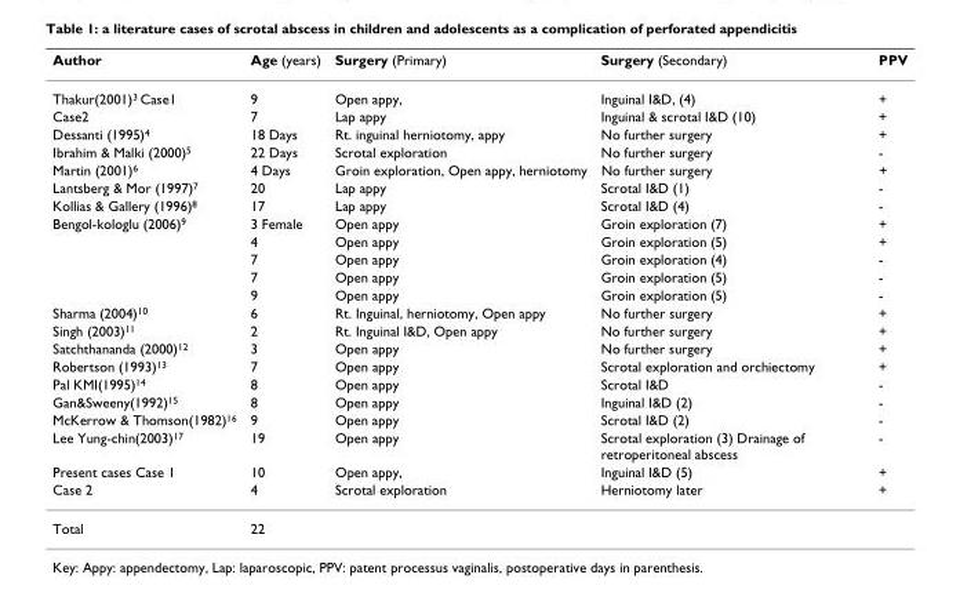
<table><thead><tr><td>Author</td><td>Age (years)</td><td>Surgery (Primary)</td><td>Surgery (Secondary)</td><td>PPV</td></tr></thead><tbody><tr><td>Thakur(2001)<sup>3</sup> Case1</td><td>9</td><td>Open appy,</td><td>Inguinal I&amp;D, (4)</td><td>+</td></tr><tr><td>Case2</td><td>7</td><td>Lap appy</td><td>Inguinal &amp; scrotal I&amp;D (10)</td><td>+</td></tr><tr><td>Dessanti (1995)<sup>4</sup></td><td>18 Days</td><td>Rt. inguinal herniotomy, appy</td><td>No further surgery</td><td>+</td></tr><tr><td>Ibrahim &amp; Malki (2000)<sup>5</sup></td><td>22 Days</td><td>Scrotal exploration</td><td>No further surgery</td><td>-</td></tr><tr><td>Martin (2001)<sup>6</sup></td><td>4 Days</td><td>Groin exploration, Open appy, herniotomy</td><td>No further surgery</td><td>+</td></tr><tr><td>Lantsberg &amp; Mor (1997)<sup>7</sup></td><td>20</td><td>Lap appy</td><td>Scrotal I&amp;D (1)</td><td>-</td></tr><tr><td>Kollias &amp; Gallery (1996)<sup>8</sup></td><td>17</td><td>Lap appy</td><td>Scrotal I&amp;D (4)</td><td>-</td></tr><tr><td rowspan="5">Bengol-kologlu (2006)<sup>9</sup></td><td>3 Female</td><td>Open appy</td><td>Groin exploration (7)</td><td>+</td></tr><tr><td>4</td><td>Open appy</td><td>Groin exploration (5)</td><td>+</td></tr><tr><td>7</td><td>Open appy</td><td>Groin exploration (4)</td><td>-</td></tr><tr><td>7</td><td>Open appy</td><td>Groin exploration (5)</td><td>-</td></tr><tr><td>9</td><td>Open appy</td><td>Groin exploration (5)</td><td>-</td></tr><tr><td>Sharma (2004)<sup>10</sup></td><td>6</td><td>Rt. Inguinal, herniotomy, Open appy</td><td>No further surgery</td><td>+</td></tr><tr><td>Singh (2003)<sup>11</sup></td><td>2</td><td>Rt. Inguinal I&amp;D, Open appy</td><td>No further surgery</td><td>+</td></tr><tr><td>Satchthananda (2000)<sup>12</sup></td><td>3</td><td>Open appy</td><td>No further surgery</td><td>+</td></tr><tr><td>Robertson (1993)<sup>13</sup></td><td>7</td><td>Open appy</td><td>Scrotal exploration and orchiectomy</td><td>+</td></tr><tr><td>Pal KMI(1995)<sup>14</sup></td><td>8</td><td>Open appy</td><td>Scrotal I&amp;D</td><td>-</td></tr><tr><td>Gan&amp;Sweeny(1992)<sup>15</sup></td><td>8</td><td>Open appy</td><td>Inguinal I&amp;D (2)</td><td>-</td></tr><tr><td>McKerrow &amp; Thomson(1982)<sup>16</sup></td><td>9</td><td>Open appy</td><td>Scrotal I&amp;D (2)</td><td>-</td></tr><tr><td>Lee Yung-chin(2003)<sup>17</sup></td><td>19</td><td>Open appy</td><td>Scrotal exploration (3) Drainage of retroperitoneal abscess</td><td>-</td></tr><tr><td>Present cases Case 1</td><td>10</td><td>Open appy,</td><td>Inguinal I&amp;D (5)</td><td>+</td></tr><tr><td>Case 2</td><td>4</td><td>Scrotal exploration</td><td>Herniotomy later</td><td>+</td></tr><tr><td>Total</td><td>22</td><td></td><td></td><td></td></tr></tbody></table>